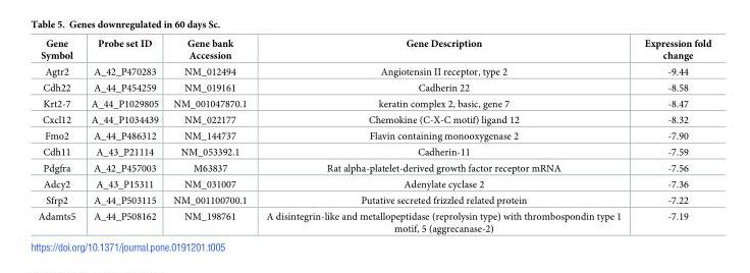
<table><thead><tr><td>Gene Symbol</td><td>Probe set ID</td><td>Gene bank Accession</td><td>Gene Description</td><td>Expression fold change</td></tr></thead><tbody><tr><td>Agtr2</td><td>A_42_P470283</td><td>NM_012494</td><td>Angiotensin II receptor, type 2</td><td>-9.44</td></tr><tr><td>Cdh22</td><td>A_44_P454259</td><td>NM_019161</td><td>Cadherin 22</td><td>-8.58</td></tr><tr><td>Krt2-7</td><td>A_44_P1029805</td><td>NM_001047870.1</td><td>keratin complex 2, basic, gene 7</td><td>-8.47</td></tr><tr><td>Cxcl12</td><td>A_44_P1034439</td><td>NM_022177</td><td>Chemokine (C-X-C motif) ligand 12</td><td>-8.32</td></tr><tr><td>Fmo2</td><td>A_44_P486312</td><td>NM_144737</td><td>Flavin containing monooxygenase 2</td><td>-7.90</td></tr><tr><td>Cdh11</td><td>A_43_P21114</td><td>NM_053392.1</td><td>Cadherin-11</td><td>-7.59</td></tr><tr><td>Pdgfra</td><td>A_42_P457003</td><td>M63837</td><td>Rat alpha-platelet-derived growth factor receptor mRNA</td><td>-7.56</td></tr><tr><td>Adcy2</td><td>A_43_P15311</td><td>NM_031007</td><td>Adenylate cyclase 2</td><td>-7.36</td></tr><tr><td>Sfrp2</td><td>A_44_P503115</td><td>NM_001100700.1</td><td>Putative secreted frizzled related protein</td><td>-7.22</td></tr><tr><td>Adamts5</td><td>A_44_P508162</td><td>NM_198761</td><td>A disintegrin-like and metallopeptidase (reprolysin type) with thrombospondin type 1 motif, 5 (aggrecanase-2)</td><td>-7.19</td></tr></tbody></table>